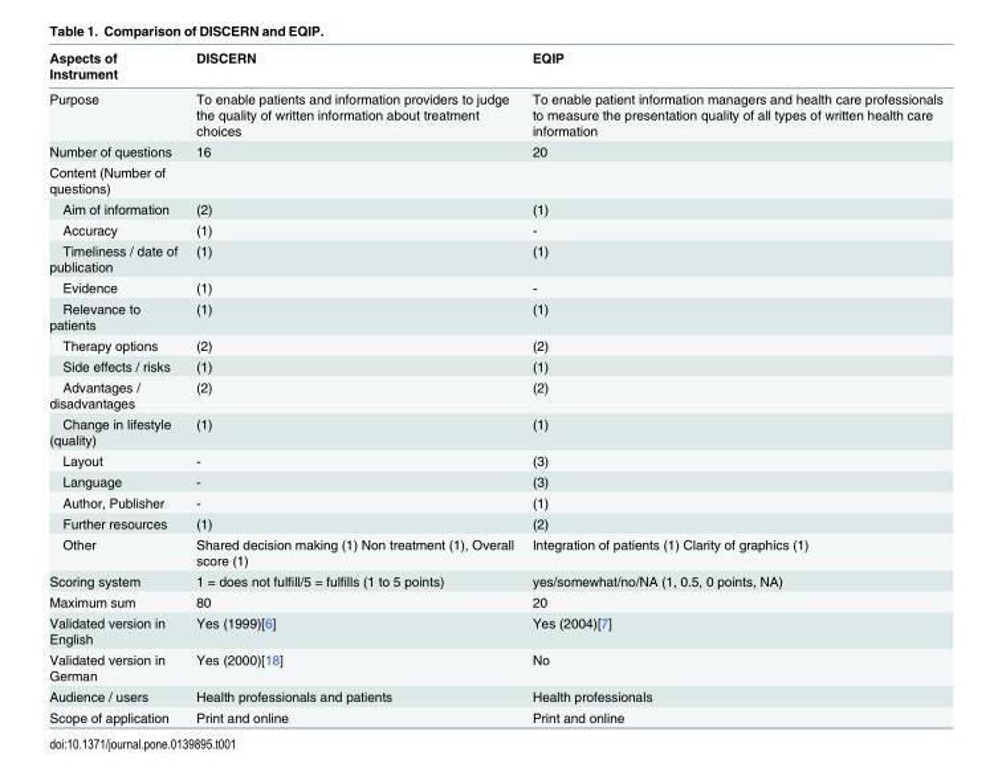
<table><thead><tr><td>Aspects of Instrument</td><td>DISCERN</td><td>EQIP</td></tr></thead><tbody><tr><td>Purpose</td><td>To enable patients and information providers to judge the quality of written information about treatment choices</td><td>To enable patient information managers and health care professionals to measure the presentation quality of all types of written health care information</td></tr><tr><td>Number of questions</td><td>16</td><td>20</td></tr><tr><td colspan="3">Content (Number of questions)</td></tr><tr><td>Aim of information</td><td>(2)</td><td>(1)</td></tr><tr><td>Accuracy</td><td>(1)</td><td>-</td></tr><tr><td>Timeliness / date of publication</td><td>(1)</td><td>(1)</td></tr><tr><td>Evidence</td><td>(1)</td><td>-</td></tr><tr><td>Relevance to patients</td><td>(1)</td><td>(1)</td></tr><tr><td>Therapy options</td><td>(2)</td><td>(2)</td></tr><tr><td>Side effects / risks</td><td>(1)</td><td>(1)</td></tr><tr><td>Advantages / disadvantages</td><td>(2)</td><td>(2)</td></tr><tr><td>Change in lifestyle (quality)</td><td>(1)</td><td>(1)</td></tr><tr><td>Layout</td><td>-</td><td>(3)</td></tr><tr><td>Language</td><td>-</td><td>(3)</td></tr><tr><td>Author, Publisher</td><td>-</td><td>(1)</td></tr><tr><td>Further resources</td><td>(1)</td><td>(2)</td></tr><tr><td>Other</td><td>Shared decision making (1) Non treatment (1), Overall score (1)</td><td>Integration of patients (1) Clarity of graphics (1)</td></tr><tr><td>Scoring system</td><td>1 = does not fulfill/5 = fulfills (1 to 5 points)</td><td>yes/somewhat/no/NA (1, 0.5, 0 points, NA)</td></tr><tr><td>Maximum sum</td><td>80</td><td>20</td></tr><tr><td>Validated version in English</td><td>Yes (1999)[6]</td><td>Yes (2004)[7]</td></tr><tr><td>Validated version in German</td><td>Yes (2000)[18]</td><td>No</td></tr><tr><td>Audience / users</td><td>Health professionals and patients</td><td>Health professionals</td></tr><tr><td>Scope of application</td><td>Print and online</td><td>Print and online</td></tr></tbody></table>